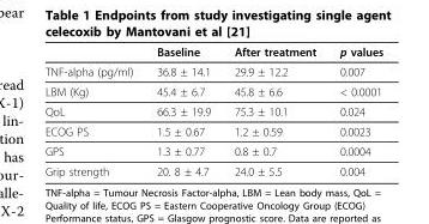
<table><thead><tr><td></td><td>Baseline</td><td>After treatment</td><td>p values</td></tr></thead><tbody><tr><td>TNF-alpha (pg/ml)</td><td>36.8 ± 14.1</td><td>29.9 ± 12.2</td><td>0.007</td></tr><tr><td>LBM (Kg)</td><td>45.4 ± 6.7</td><td>45.8 ± 6.6</td><td>&lt; 0.0001</td></tr><tr><td>QoL</td><td>66.3 ± 19.9</td><td>75.3 ± 10.1</td><td>0.024</td></tr><tr><td>ECOG PS</td><td>1.5 ± 0.67</td><td>1.2 ± 0.59</td><td>0.0023</td></tr><tr><td>GPS</td><td>1.3 ± 0.77</td><td>0.8 ± 0.7</td><td>0.0004</td></tr><tr><td>Grip strength</td><td>20. 8 ± 4.7</td><td>24.0 ± 5.5</td><td>0.004</td></tr></tbody></table>